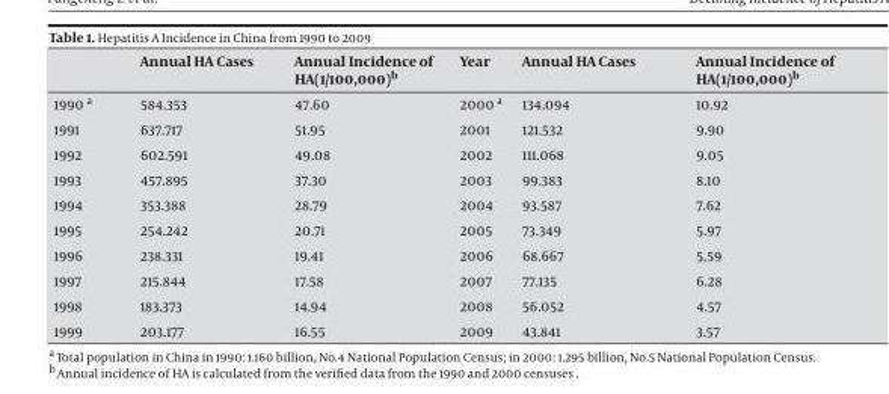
<table><thead><tr><td></td><td>Annual HA Cases</td><td>Annual Incidence of HA(1/100,000)<sup>b</sup></td><td>Year</td><td>Annual HA Cases</td><td>Annual Incidence of HA(1/100,000)b</td></tr></thead><tbody><tr><td>1990 a</td><td>584.353</td><td>47.60</td><td>2000 a</td><td>134.094</td><td>10.92</td></tr><tr><td>1991</td><td>637.717</td><td>51.95</td><td>2001</td><td>121.532</td><td>9.90</td></tr><tr><td>1992</td><td>602.591</td><td>49.08</td><td>2002</td><td>111.068</td><td>9.05</td></tr><tr><td>1993</td><td>457.895</td><td>37.30</td><td>2003</td><td>99.383</td><td>8.10</td></tr><tr><td>1994</td><td>353.388</td><td>28.79</td><td>2004</td><td>93.587</td><td>7.62</td></tr><tr><td>1995</td><td>254.242</td><td>20.71</td><td>2005</td><td>73.349</td><td>5.97</td></tr><tr><td>1996</td><td>238.331</td><td>19.41</td><td>2006</td><td>68.667</td><td>5.59</td></tr><tr><td>1997</td><td>215.844</td><td>17.58</td><td>2007</td><td>77.135</td><td>6.28</td></tr><tr><td>1998</td><td>183.373</td><td>14.94</td><td>2008</td><td>56.052</td><td>4.57</td></tr><tr><td>1999</td><td>203.177</td><td>16.55</td><td>2009</td><td>43.841</td><td>3.57</td></tr></tbody></table>